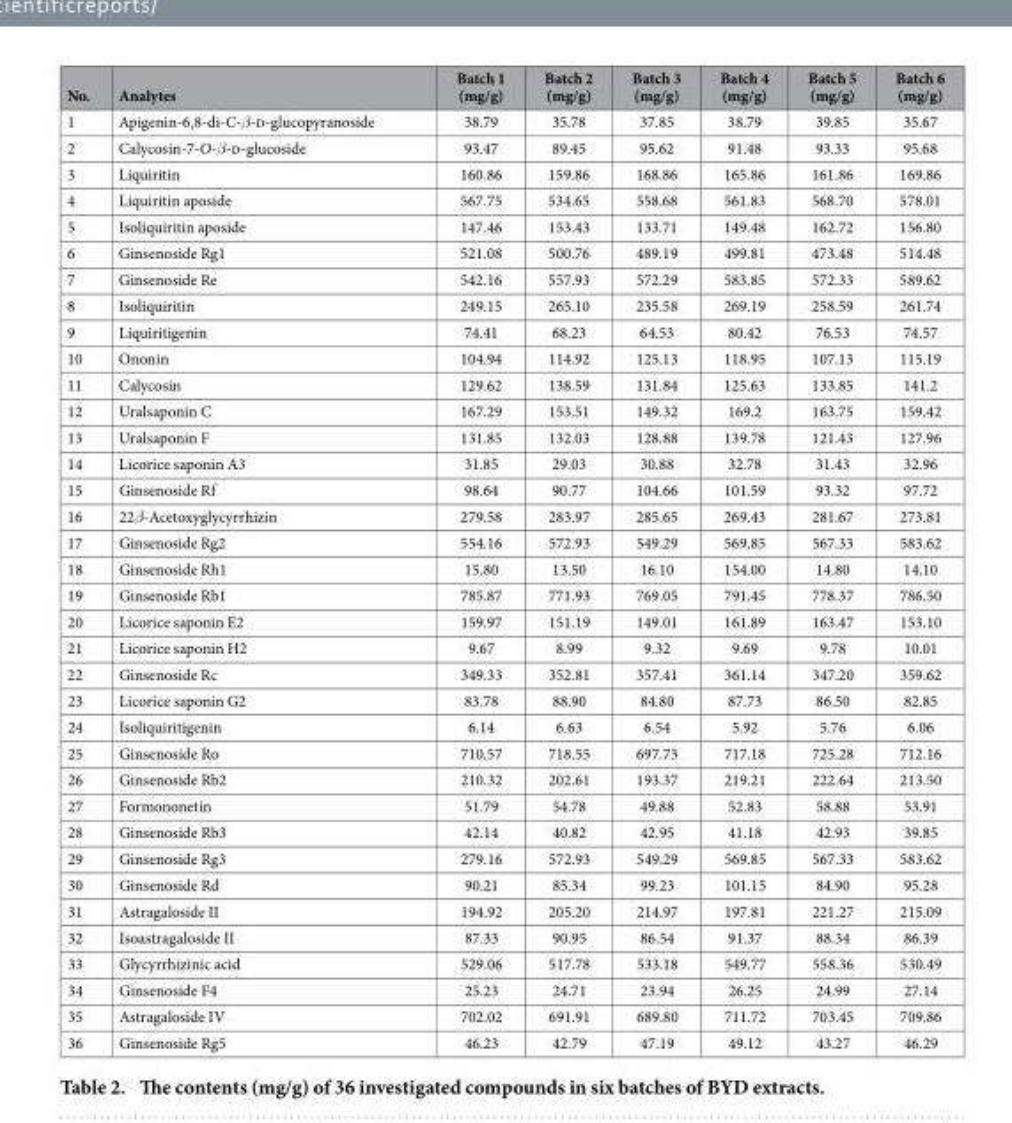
<table><thead><tr><td>No.</td><td>Analytes</td><td>Batch 1 (mg/g)</td><td>Batch 2 (mg/g)</td><td>Batch 3 (mg/g)</td><td>Batch 4 (mg/g)</td><td>Batch 5 (mg/g)</td><td>Batch 6 (mg/g)</td></tr></thead><tbody><tr><td>1</td><td>Apigenin-6,8-di-C-β-d-glucopyranoside</td><td>38.79</td><td>35.78</td><td>37.85</td><td>38.79</td><td>39.85</td><td>35.67</td></tr><tr><td>2</td><td>Calycosin-7-O-β-d-glucoside</td><td>93.47</td><td>89.45</td><td>95.62</td><td>91.48</td><td>93.33</td><td>95.68</td></tr><tr><td>3</td><td>Liquiritin</td><td>160.86</td><td>159.86</td><td>168.86</td><td>165.86</td><td>161.86</td><td>169.86</td></tr><tr><td>4</td><td>Liquiritin aposide</td><td>567.75</td><td>534.65</td><td>558.68</td><td>561.83</td><td>568.70</td><td>578.01</td></tr><tr><td>5</td><td>Isoliquiritin aposide</td><td>147.46</td><td>153.43</td><td>133.71</td><td>149.48</td><td>162.72</td><td>156.80</td></tr><tr><td>6</td><td>Ginsenoside Rg1</td><td>521.08</td><td>500.76</td><td>489.19</td><td>499.81</td><td>473.48</td><td>514.48</td></tr><tr><td>7</td><td>Ginsenoside Re</td><td>542.16</td><td>557.93</td><td>572.29</td><td>583.85</td><td>572.33</td><td>589.62</td></tr><tr><td>8</td><td>Isoliquiritin</td><td>249.15</td><td>265.10</td><td>235.58</td><td>269.19</td><td>258.59</td><td>261.74</td></tr><tr><td>9</td><td>Liquiritigenin</td><td>74.41</td><td>68.23</td><td>64.53</td><td>80.42</td><td>76.53</td><td>74.57</td></tr><tr><td>10</td><td>Ononin</td><td>104.94</td><td>114.92</td><td>125.13</td><td>118.95</td><td>107.13</td><td>115.19</td></tr><tr><td>11</td><td>Calycosin</td><td>129.62</td><td>138.59</td><td>131.84</td><td>125.63</td><td>133.85</td><td>141.2</td></tr><tr><td>12</td><td>Uralsaponin C</td><td>167.29</td><td>153.51</td><td>149.32</td><td>169.2</td><td>163.75</td><td>159.42</td></tr><tr><td>13</td><td>Uralsaponin F</td><td>131.85</td><td>132.03</td><td>128.88</td><td>139.78</td><td>121.43</td><td>127.96</td></tr><tr><td>14</td><td>Licorice saponin A3</td><td>31.85</td><td>29.03</td><td>30.88</td><td>32.78</td><td>31.43</td><td>32.96</td></tr><tr><td>15</td><td>Ginsenoside Rf</td><td>98.64</td><td>90.77</td><td>104.66</td><td>101.59</td><td>93.32</td><td>97.72</td></tr><tr><td>16</td><td>22β-Acetoxyglycyrrhizin</td><td>279.58</td><td>283.97</td><td>285.65</td><td>269.43</td><td>281.67</td><td>273.81</td></tr><tr><td>17</td><td>Ginsenoside Rg2</td><td>554.16</td><td>572.93</td><td>549.29</td><td>569.85</td><td>567.33</td><td>583.62</td></tr><tr><td>18</td><td>Ginsenoside Rh1</td><td>15.80</td><td>13.50</td><td>16.10</td><td>154.00</td><td>14.80</td><td>14.10</td></tr><tr><td>19</td><td>Ginsenoside Rb1</td><td>785.87</td><td>771.93</td><td>769.05</td><td>791.45</td><td>778.37</td><td>786.50</td></tr><tr><td>20</td><td>Licorice saponin E2</td><td>159.97</td><td>151.19</td><td>149.01</td><td>161.89</td><td>163.47</td><td>153.10</td></tr><tr><td>21</td><td>Licorice saponin H2</td><td>9.67</td><td>8.99</td><td>9.32</td><td>9.69</td><td>9.78</td><td>10.01</td></tr><tr><td>22</td><td>Ginsenoside Rc</td><td>349.33</td><td>352.81</td><td>357.41</td><td>361.14</td><td>347.20</td><td>359.62</td></tr><tr><td>23</td><td>Licorice saponin G2</td><td>83.78</td><td>88.90</td><td>84.80</td><td>87.73</td><td>86.50</td><td>82.85</td></tr><tr><td>24</td><td>Isoliquiritigenin</td><td>6.14</td><td>6.63</td><td>6.54</td><td>5.92</td><td>5.76</td><td>6.06</td></tr><tr><td>25</td><td>Ginsenoside Ro</td><td>710.57</td><td>718.55</td><td>697.73</td><td>717.18</td><td>725.28</td><td>712.16</td></tr><tr><td>26</td><td>Ginsenoside Rb2</td><td>210.32</td><td>202.61</td><td>193.37</td><td>219.21</td><td>222.64</td><td>213.50</td></tr><tr><td>27</td><td>Formononetin</td><td>51.79</td><td>54.78</td><td>49.88</td><td>52.83</td><td>58.88</td><td>53.91</td></tr><tr><td>28</td><td>Ginsenoside Rb3</td><td>42.14</td><td>40.82</td><td>42.95</td><td>41.18</td><td>42.93</td><td>39.85</td></tr><tr><td>29</td><td>Ginsenoside Rg3</td><td>279.16</td><td>572.93</td><td>549.29</td><td>569.85</td><td>567.33</td><td>583.62</td></tr><tr><td>30</td><td>Ginsenoside Rd</td><td>90.21</td><td>85.34</td><td>99.23</td><td>101.15</td><td>84.90</td><td>95.28</td></tr><tr><td>31</td><td>Astragaloside II</td><td>194.92</td><td>205.20</td><td>214.97</td><td>197.81</td><td>221.27</td><td>215.09</td></tr><tr><td>32</td><td>Isoastragaloside II</td><td>87.33</td><td>90.95</td><td>86.54</td><td>91.37</td><td>88.34</td><td>86.39</td></tr><tr><td>33</td><td>Glycyrrhizinic acid</td><td>529.06</td><td>517.78</td><td>533.18</td><td>549.77</td><td>558.36</td><td>530.49</td></tr><tr><td>34</td><td>Ginsenoside F4</td><td>25.23</td><td>24.71</td><td>23.94</td><td>26.25</td><td>24.99</td><td>27.14</td></tr><tr><td>35</td><td>Astragaloside IV</td><td>702.02</td><td>691.91</td><td>689.80</td><td>711.72</td><td>703.45</td><td>709.86</td></tr><tr><td>36</td><td>Ginsenoside Rg5</td><td>46.23</td><td>42.79</td><td>47.19</td><td>49.12</td><td>43.27</td><td>46.29</td></tr></tbody></table>